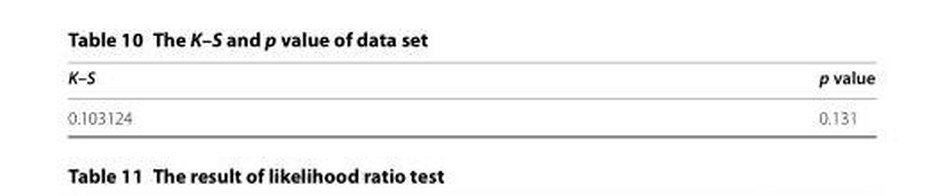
<table><thead><tr><td>K–S</td><td>p value</td></tr></thead><tbody><tr><td>0.103124</td><td>0.131</td></tr></tbody></table>